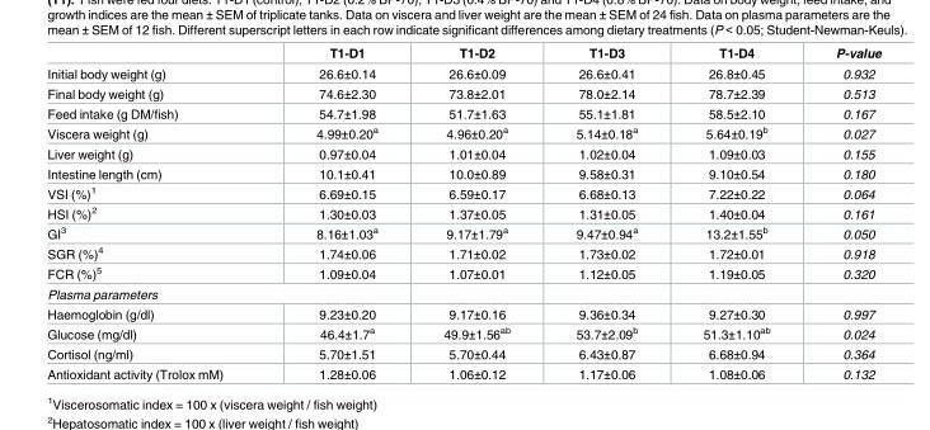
<table><thead><tr><td></td><td>T1-D1</td><td>T1-D2</td><td>T1-D3</td><td>T1-D4</td><td>P-value</td></tr></thead><tbody><tr><td>Initial body weight (g)</td><td>26.6±0.14</td><td>26.6±0.09</td><td>26.6±0.41</td><td>26.8±0.45</td><td>0.932</td></tr><tr><td>Final body weight (g)</td><td>74.6±2.30</td><td>73.8±2.01</td><td>78.0±2.14</td><td>78.7±2.39</td><td>0.513</td></tr><tr><td>Feed intake (g DM/fish)</td><td>54.7±1.98</td><td>51.7±1.63</td><td>55.1±1.81</td><td>58.5±2.10</td><td>0.167</td></tr><tr><td>Viscera weight (g)</td><td>4.99±0.20<sup>a</sup></td><td>4.96±0.20<sup>a</sup></td><td>5.14±0.18<sup>a</sup></td><td>5.64±0.19<sup>b</sup></td><td>0.027</td></tr><tr><td>Liver weight (g)</td><td>0.97±0.04</td><td>1.01±0.04</td><td>1.02±0.04</td><td>1.09±0.03</td><td>0.155</td></tr><tr><td>Intestine length (cm)</td><td>10.1±0.41</td><td>10.0±0.89</td><td>9.58±0.31</td><td>9.10±0.54</td><td>0.180</td></tr><tr><td>VSI (%)<sup>1</sup></td><td>6.69±0.15</td><td>6.59±0.17</td><td>6.68±0.13</td><td>7.22±0.22</td><td>0.064</td></tr><tr><td>HSI (%)<sup>2</sup></td><td>1.30±0.03</td><td>1.37±0.05</td><td>1.31±0.05</td><td>1.40±0.04</td><td>0.161</td></tr><tr><td>GI<sup>3</sup></td><td>8.16±1.03<sup>a</sup></td><td>9.17±1.79<sup>a</sup></td><td>9.47±0.94<sup>a</sup></td><td>13.2±1.55<sup>b</sup></td><td>0.050</td></tr><tr><td>SGR (%)<sup>4</sup></td><td>1.74±0.06</td><td>1.71±0.02</td><td>1.73±0.02</td><td>1.72±0.01</td><td>0.918</td></tr><tr><td>FCR (%)<sup>5</sup></td><td>1.09±0.04</td><td>1.07±0.01</td><td>1.12±0.05</td><td>1.19±0.05</td><td>0.320</td></tr><tr><td colspan="6">Plasma parameters</td></tr><tr><td>Haemoglobin (g/dl)</td><td>9.23±0.20</td><td>9.17±0.16</td><td>9.36±0.34</td><td>9.27±0.30</td><td>0.997</td></tr><tr><td>Glucose (mg/dl)</td><td>46.4±1.7<sup>a</sup></td><td>49.9±1.56<sup>ab</sup></td><td>53.7±2.09<sup>b</sup></td><td>51.3±1.10<sup>ab</sup></td><td>0.024</td></tr><tr><td>Cortisol (ng/ml)</td><td>5.70±1.51</td><td>5.70±0.44</td><td>6.43±0.87</td><td>6.68±0.94</td><td>0.364</td></tr><tr><td>Antioxidant activity (Trolox mM)</td><td>1.28±0.06</td><td>1.06±0.12</td><td>1.17±0.06</td><td>1.08±0.06</td><td>0.132</td></tr></tbody></table>